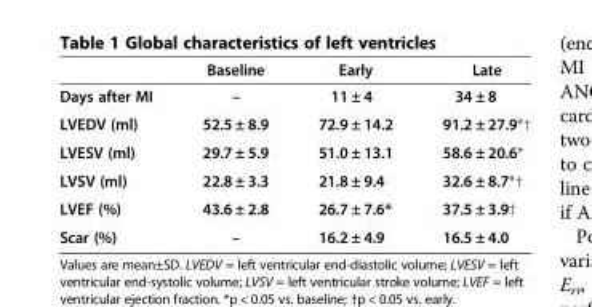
<table><thead><tr><td></td><td>Baseline</td><td>Early</td><td>Late</td></tr></thead><tbody><tr><td>Days after MI</td><td>–</td><td>11 ± 4</td><td>34 ± 8</td></tr><tr><td>LVEDV (ml)</td><td>52.5 ± 8.9</td><td>72.9 ± 14.2</td><td>91.2 ± 27.9*†</td></tr><tr><td>LVESV (ml)</td><td>29.7 ± 5.9</td><td>51.0 ± 13.1</td><td>58.6 ± 20.6*</td></tr><tr><td>LVSV (ml)</td><td>22.8 ± 3.3</td><td>21.8 ± 9.4</td><td>32.6 ± 8.7*†</td></tr><tr><td>LVEF (%)</td><td>43.6 ± 2.8</td><td>26.7 ± 7.6*</td><td>37.5 ± 3.9†</td></tr><tr><td>Scar (%)</td><td>–</td><td>16.2 ± 4.9</td><td>16.5 ± 4.0</td></tr></tbody></table>